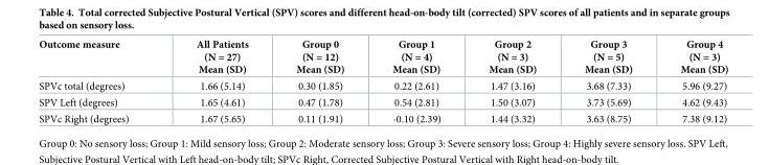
<table><thead><tr><td>Outcome measure</td><td>All Patients (N = 27) Mean (SD)</td><td>Group 0 (N = 12) Mean (SD)</td><td>Group 1 (N = 4) Mean (SD)</td><td>Group 2 (N = 3) Mean (SD)</td><td>Group 3 (N = 5) Mean (SD)</td><td>Group 4 (N = 3) Mean (SD)</td></tr></thead><tbody><tr><td>SPVc total (degrees)</td><td>1.66 (5.14)</td><td>0.30 (1.85)</td><td>0.22 (2.61)</td><td>1.47 (3.16)</td><td>3.68 (7.33)</td><td>5.96 (9.27)</td></tr><tr><td>SPV Left (degrees)</td><td>1.65 (4.61)</td><td>0.47 (1.78)</td><td>0.54 (2.81)</td><td>1.50 (3.07)</td><td>3.73 (5.69)</td><td>4.62 (9.43)</td></tr><tr><td>SPVc Right (degrees)</td><td>1.67 (5.65)</td><td>0.11 (1.91)</td><td>-0.10 (2.39)</td><td>1.44 (3.32)</td><td>3.63 (8.75)</td><td>7.38 (9.12)</td></tr></tbody></table>